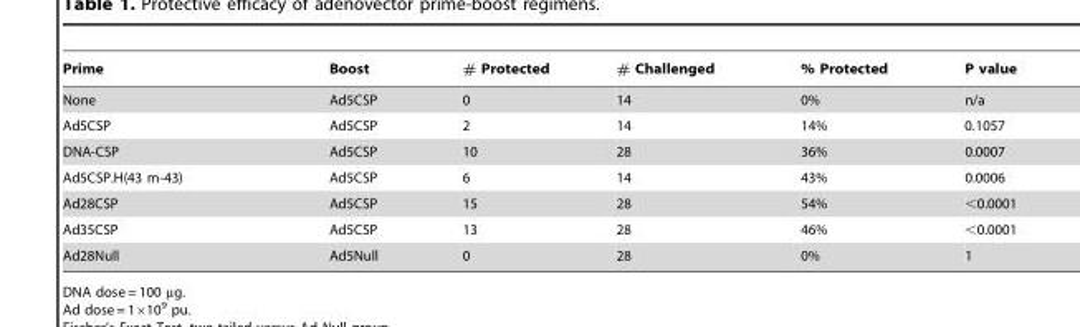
<table><thead><tr><td>Prime</td><td>Boost</td><td># Protected</td><td># Challenged</td><td>% Protected</td><td>P value</td></tr></thead><tbody><tr><td>None</td><td>Ad5CSP</td><td>0</td><td>14</td><td>0%</td><td>n/a</td></tr><tr><td>Ad5CSP</td><td>Ad5CSP</td><td>2</td><td>14</td><td>14%</td><td>0.1057</td></tr><tr><td>DNA-CSP</td><td>Ad5CSP</td><td>10</td><td>28</td><td>36%</td><td>0.0007</td></tr><tr><td>Ad5CSP.H(43 m-43)</td><td>Ad5CSP</td><td>6</td><td>14</td><td>43%</td><td>0.0006</td></tr><tr><td>Ad28CSP</td><td>Ad5CSP</td><td>15</td><td>28</td><td>54%</td><td>&lt;0.0001</td></tr><tr><td>Ad35CSP</td><td>Ad5CSP</td><td>13</td><td>28</td><td>46%</td><td>&lt;0.0001</td></tr><tr><td>Ad28Null</td><td>Ad5Null</td><td>0</td><td>28</td><td>0%</td><td>1</td></tr></tbody></table>